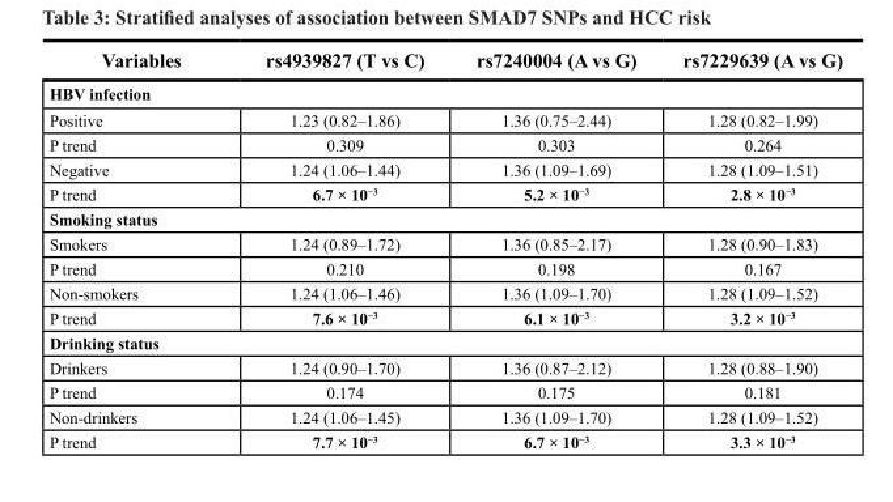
<table><thead><tr><td>Variables</td><td>rs4939827 (T vs C)</td><td>rs7240004 (A vs G)</td><td>rs7229639 (A vs G)</td></tr></thead><tbody><tr><td colspan="4">HBV infection</td></tr><tr><td>Positive</td><td>1.23 (0.82–1.86)</td><td>1.36 (0.75–2.44)</td><td>1.28 (0.82–1.99)</td></tr><tr><td>P trend</td><td>0.309</td><td>0.303</td><td>0.264</td></tr><tr><td>Negative</td><td>1.24 (1.06–1.44)</td><td>1.36 (1.09–1.69)</td><td>1.28 (1.09–1.51)</td></tr><tr><td>P trend</td><td>6.7 × 10<sup>−3</sup></td><td>5.2 × 10<sup>−3</sup></td><td>2.8 × 10<sup>−3</sup></td></tr><tr><td colspan="4">Smoking status</td></tr><tr><td>Smokers</td><td>1.24 (0.89–1.72)</td><td>1.36 (0.85–2.17)</td><td>1.28 (0.90–1.83)</td></tr><tr><td>P trend</td><td>0.210</td><td>0.198</td><td>0.167</td></tr><tr><td>Non-smokers</td><td>1.24 (1.06–1.46)</td><td>1.36 (1.09–1.70)</td><td>1.28 (1.09–1.52)</td></tr><tr><td>P trend</td><td>7.6 × 10<sup>−3</sup></td><td>6.1 × 10<sup>−3</sup></td><td>3.2 × 10<sup>−3</sup></td></tr><tr><td colspan="4">Drinking status</td></tr><tr><td>Drinkers</td><td>1.24 (0.90–1.70)</td><td>1.36 (0.87–2.12)</td><td>1.28 (0.88–1.90)</td></tr><tr><td>P trend</td><td>0.174</td><td>0.175</td><td>0.181</td></tr><tr><td>Non-drinkers</td><td>1.24 (1.06–1.45)</td><td>1.36 (1.09–1.70)</td><td>1.28 (1.09–1.52)</td></tr><tr><td>P trend</td><td>7.7 × 10<sup>−3</sup></td><td>6.7 × 10<sup>−3</sup></td><td>3.3 × 10<sup>−3</sup></td></tr></tbody></table>